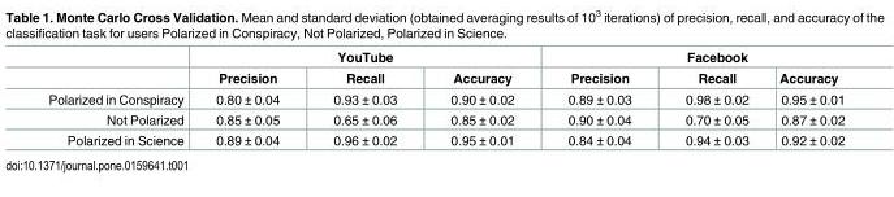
<table><thead><tr><td rowspan="2"></td><td colspan="3">YouTube</td><td colspan="3">Facebook</td></tr><tr><td>Precision</td><td>Recall</td><td>Accuracy</td><td>Precision</td><td>Recall</td><td>Accuracy</td></tr></thead><tbody><tr><td>Polarized in Conspiracy</td><td>0.80 ± 0.04</td><td>0.93 ± 0.03</td><td>0.90 ± 0.02</td><td>0.89 ± 0.03</td><td>0.98 ± 0.02</td><td>0.95 ± 0.01</td></tr><tr><td>Not Polarized</td><td>0.85 ± 0.05</td><td>0.65 ± 0.06</td><td>0.85 ± 0.02</td><td>0.90 ± 0.04</td><td>0.70 ± 0.05</td><td>0.87 ± 0.02</td></tr><tr><td>Polarized in Science</td><td>0.89 ± 0.04</td><td>0.96 ± 0.02</td><td>0.95 ± 0.01</td><td>0.84 ± 0.04</td><td>0.94 ± 0.03</td><td>0.92 ± 0.02</td></tr></tbody></table>